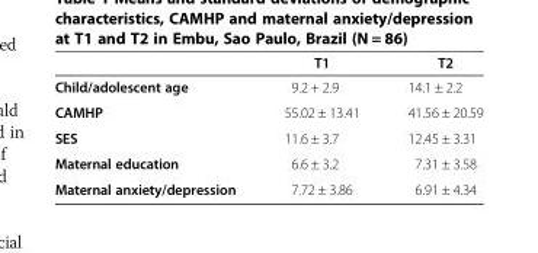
<table><thead><tr><td></td><td>T1</td><td>T2</td></tr></thead><tbody><tr><td>Child/adolescent age</td><td>9.2 + 2.9</td><td>14.1 ± 2.2</td></tr><tr><td>CAMHP</td><td>55.02 ± 13.41</td><td>41.56 ± 20.59</td></tr><tr><td>SES</td><td>11.6 ± 3.7</td><td>12.45 ± 3.31</td></tr><tr><td>Maternal education</td><td>6.6 ± 3.2</td><td>7.31 ± 3.58</td></tr><tr><td>Maternal anxiety/depression</td><td>7.72 ± 3.86</td><td>6.91 ± 4.34</td></tr></tbody></table>